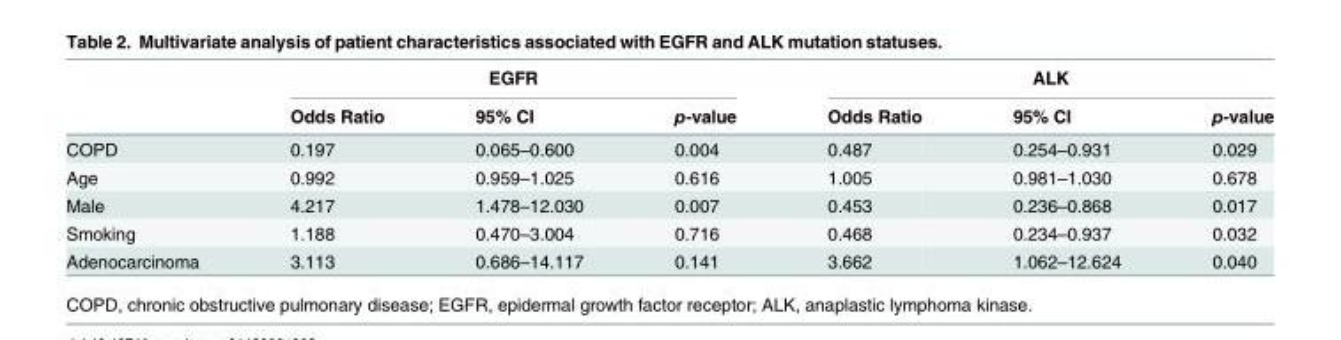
<table><thead><tr><td rowspan="2"></td><td colspan="3">EGFR</td><td colspan="3">ALK</td></tr><tr><td>Odds Ratio</td><td>95% CI</td><td>p-value</td><td>Odds Ratio</td><td>95% CI</td><td>p-value</td></tr></thead><tbody><tr><td>COPD</td><td>0.197</td><td>0.065–0.600</td><td>0.004</td><td>0.487</td><td>0.254–0.931</td><td>0.029</td></tr><tr><td>Age</td><td>0.992</td><td>0.959–1.025</td><td>0.616</td><td>1.005</td><td>0.981–1.030</td><td>0.678</td></tr><tr><td>Male</td><td>4.217</td><td>1.478–12.030</td><td>0.007</td><td>0.453</td><td>0.236–0.868</td><td>0.017</td></tr><tr><td>Smoking</td><td>1.188</td><td>0.470–3.004</td><td>0.716</td><td>0.468</td><td>0.234–0.937</td><td>0.032</td></tr><tr><td>Adenocarcinoma</td><td>3.113</td><td>0.686–14.117</td><td>0.141</td><td>3.662</td><td>1.062–12.624</td><td>0.040</td></tr></tbody></table>